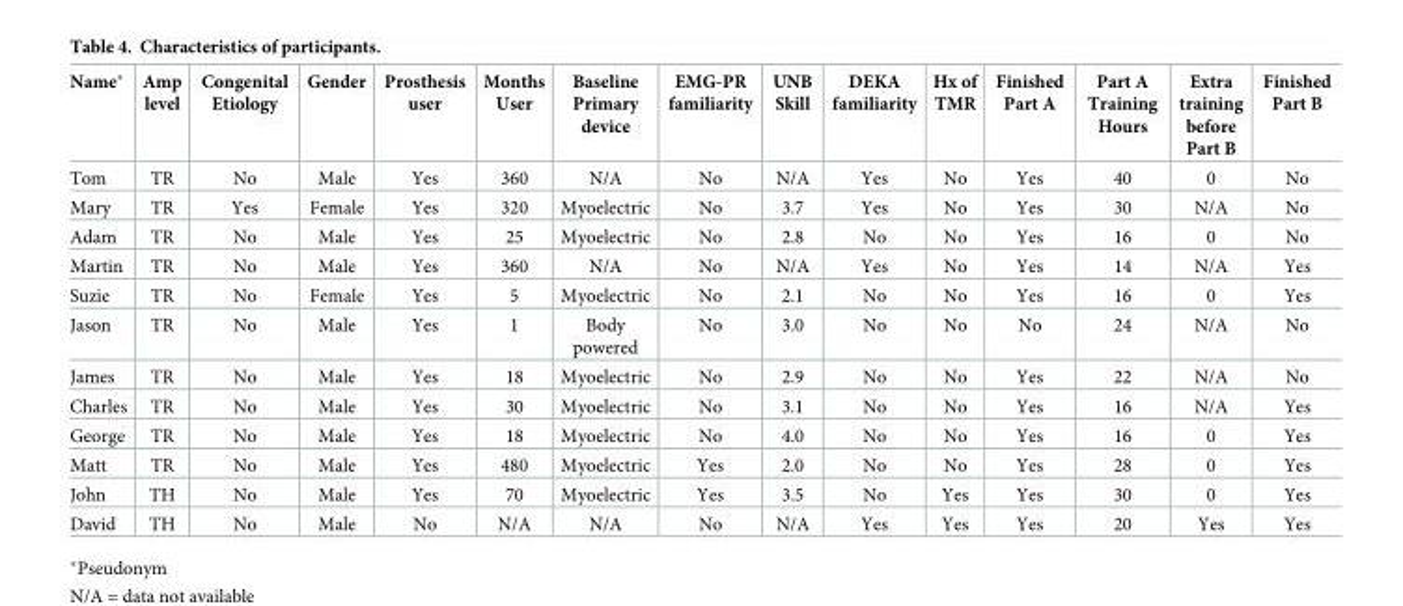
<table><thead><tr><td>Name*</td><td>Amp level</td><td>Congenital Etiology</td><td>Gender</td><td>Prosthesis user</td><td>Months User</td><td>Baseline Primary device</td><td>EMG-PR familiarity</td><td>UNB Skill</td><td>DEKA familiarity</td><td>Hx of TMR</td><td>Finished Part A</td><td>Part A Training Hours</td><td>Extra training before Part B</td><td>Finished Part B</td></tr></thead><tbody><tr><td>Tom</td><td>TR</td><td>No</td><td>Male</td><td>Yes</td><td>360</td><td>N/A</td><td>No</td><td>N/A</td><td>Yes</td><td>No</td><td>Yes</td><td>40</td><td>0</td><td>No</td></tr><tr><td>Mary</td><td>TR</td><td>Yes</td><td>Female</td><td>Yes</td><td>320</td><td>Myoelectric</td><td>No</td><td>3.7</td><td>Yes</td><td>No</td><td>Yes</td><td>30</td><td>N/A</td><td>No</td></tr><tr><td>Adam</td><td>TR</td><td>No</td><td>Male</td><td>Yes</td><td>25</td><td>Myoelectric</td><td>No</td><td>2.8</td><td>No</td><td>No</td><td>Yes</td><td>16</td><td>0</td><td>No</td></tr><tr><td>Martin</td><td>TR</td><td>No</td><td>Male</td><td>Yes</td><td>360</td><td>N/A</td><td>No</td><td>N/A</td><td>Yes</td><td>No</td><td>Yes</td><td>14</td><td>N/A</td><td>Yes</td></tr><tr><td>Suzie</td><td>TR</td><td>No</td><td>Female</td><td>Yes</td><td>5</td><td>Myoelectric</td><td>No</td><td>2.1</td><td>No</td><td>No</td><td>Yes</td><td>16</td><td>0</td><td>Yes</td></tr><tr><td>Jason</td><td>TR</td><td>No</td><td>Male</td><td>Yes</td><td>1</td><td>Body powered</td><td>No</td><td>3.0</td><td>No</td><td>No</td><td>No</td><td>24</td><td>N/A</td><td>No</td></tr><tr><td>James</td><td>TR</td><td>No</td><td>Male</td><td>Yes</td><td>18</td><td>Myoelectric</td><td>No</td><td>2.9</td><td>No</td><td>No</td><td>Yes</td><td>22</td><td>N/A</td><td>No</td></tr><tr><td>Charles</td><td>TR</td><td>No</td><td>Male</td><td>Yes</td><td>30</td><td>Myoelectric</td><td>No</td><td>3.1</td><td>No</td><td>No</td><td>Yes</td><td>16</td><td>N/A</td><td>Yes</td></tr><tr><td>George</td><td>TR</td><td>No</td><td>Male</td><td>Yes</td><td>18</td><td>Myoelectric</td><td>No</td><td>4.0</td><td>No</td><td>No</td><td>Yes</td><td>16</td><td>0</td><td>Yes</td></tr><tr><td>Matt</td><td>TR</td><td>No</td><td>Male</td><td>Yes</td><td>480</td><td>Myoelectric</td><td>Yes</td><td>2.0</td><td>No</td><td>No</td><td>Yes</td><td>28</td><td>0</td><td>Yes</td></tr><tr><td>John</td><td>TH</td><td>No</td><td>Male</td><td>Yes</td><td>70</td><td>Myoelectric</td><td>Yes</td><td>3.5</td><td>No</td><td>Yes</td><td>Yes</td><td>30</td><td>0</td><td>Yes</td></tr><tr><td>David</td><td>TH</td><td>No</td><td>Male</td><td>No</td><td>N/A</td><td>N/A</td><td>No</td><td>N/A</td><td>Yes</td><td>Yes</td><td>Yes</td><td>20</td><td>Yes</td><td>Yes</td></tr></tbody></table>